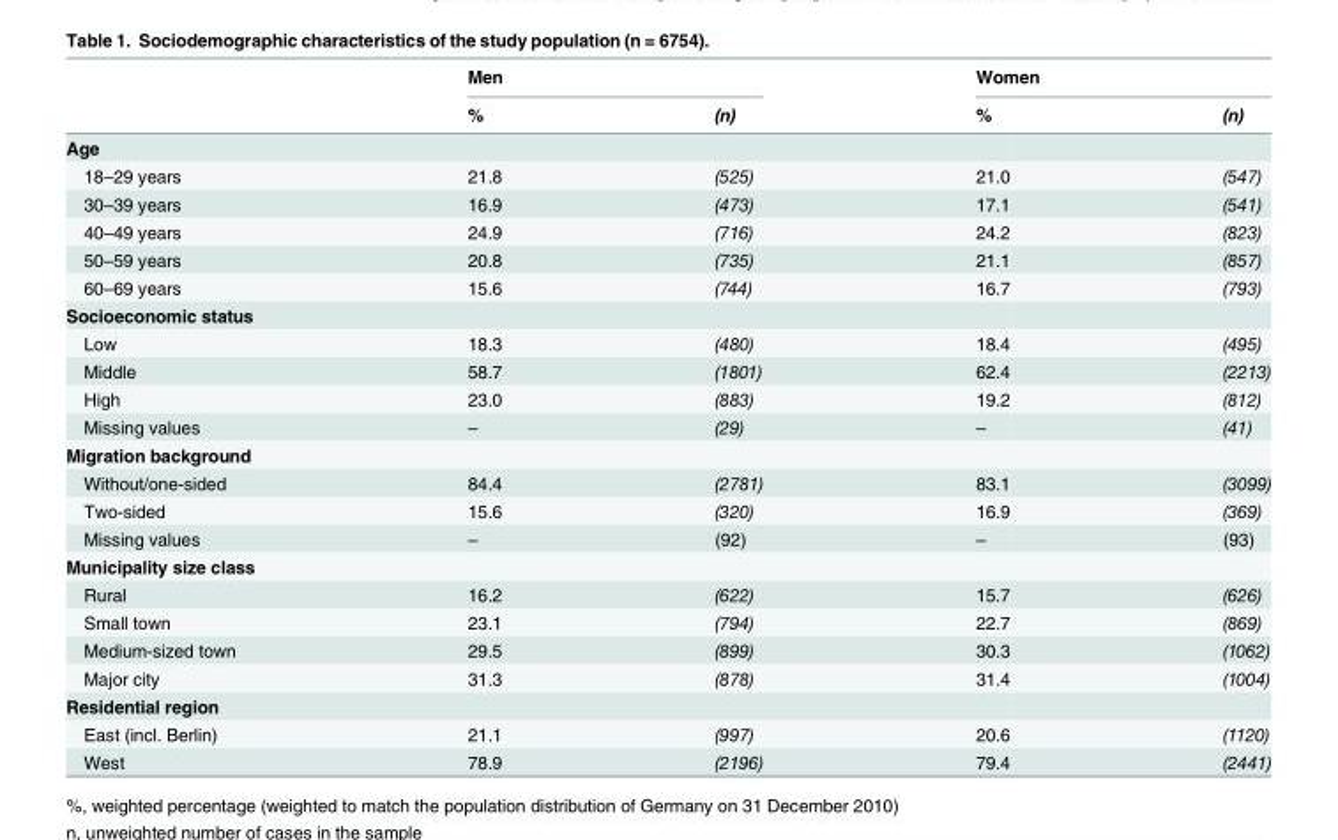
<table><thead><tr><td rowspan="2"></td><td colspan="2">Men</td><td colspan="2">Women</td></tr><tr><td>%</td><td>(n)</td><td>%</td><td>(n)</td></tr></thead><tbody><tr><td colspan="5">Age</td></tr><tr><td>18–29 years</td><td>21.8</td><td>(525)</td><td>21.0</td><td>(547)</td></tr><tr><td>30–39 years</td><td>16.9</td><td>(473)</td><td>17.1</td><td>(541)</td></tr><tr><td>40–49 years</td><td>24.9</td><td>(716)</td><td>24.2</td><td>(823)</td></tr><tr><td>50–59 years</td><td>20.8</td><td>(735)</td><td>21.1</td><td>(857)</td></tr><tr><td>60–69 years</td><td>15.6</td><td>(744)</td><td>16.7</td><td>(793)</td></tr><tr><td colspan="5">Socioeconomic status</td></tr><tr><td>Low</td><td>18.3</td><td>(480)</td><td>18.4</td><td>(495)</td></tr><tr><td>Middle</td><td>58.7</td><td>(1801)</td><td>62.4</td><td>(2213)</td></tr><tr><td>High</td><td>23.0</td><td>(883)</td><td>19.2</td><td>(812)</td></tr><tr><td>Missing values</td><td>–</td><td>(29)</td><td>–</td><td>(41)</td></tr><tr><td colspan="5">Migration background</td></tr><tr><td>Without/one-sided</td><td>84.4</td><td>(2781)</td><td>83.1</td><td>(3099)</td></tr><tr><td>Two-sided</td><td>15.6</td><td>(320)</td><td>16.9</td><td>(369)</td></tr><tr><td>Missing values</td><td>–</td><td>(92)</td><td>–</td><td>(93)</td></tr><tr><td colspan="5">Municipality size class</td></tr><tr><td>Rural</td><td>16.2</td><td>(622)</td><td>15.7</td><td>(626)</td></tr><tr><td>Small town</td><td>23.1</td><td>(794)</td><td>22.7</td><td>(869)</td></tr><tr><td>Medium-sized town</td><td>29.5</td><td>(899)</td><td>30.3</td><td>(1062)</td></tr><tr><td>Major city</td><td>31.3</td><td>(878)</td><td>31.4</td><td>(1004)</td></tr><tr><td colspan="5">Residential region</td></tr><tr><td>East (incl. Berlin)</td><td>21.1</td><td>(997)</td><td>20.6</td><td>(1120)</td></tr><tr><td>West</td><td>78.9</td><td>(2196)</td><td>79.4</td><td>(2441)</td></tr></tbody></table>